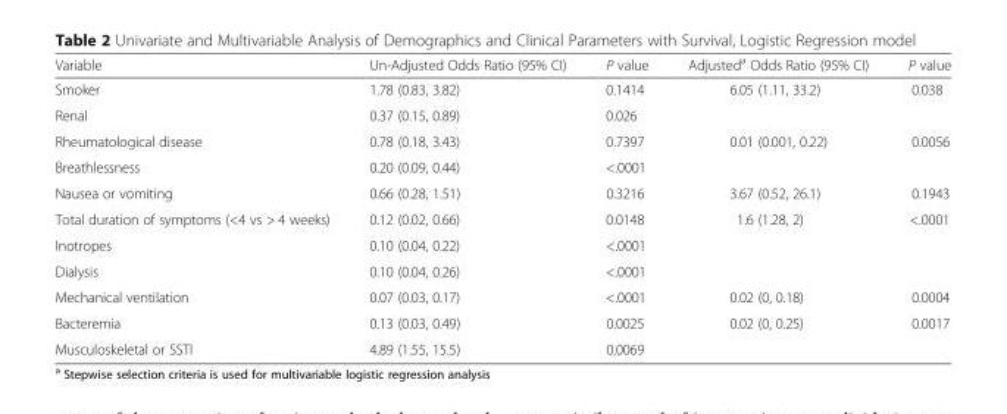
<table><thead><tr><td>Variable</td><td>Un-Adjusted Odds Ratio (95% CI)</td><td>P value</td><td>Adjusted<sup>a</sup> Odds Ratio (95% CI)</td><td>P value</td></tr></thead><tbody><tr><td>Smoker</td><td>1.78 (0.83, 3.82)</td><td>0.1414</td><td>6.05 (1.11, 33.2)</td><td>0.038</td></tr><tr><td>Renal</td><td>0.37 (0.15, 0.89)</td><td>0.026</td><td></td><td></td></tr><tr><td>Rheumatological disease</td><td>0.78 (0.18, 3.43)</td><td>0.7397</td><td>0.01 (0.001, 0.22)</td><td>0.0056</td></tr><tr><td>Breathlessness</td><td>0.20 (0.09, 0.44)</td><td>&lt;.0001</td><td></td><td></td></tr><tr><td>Nausea or vomiting</td><td>0.66 (0.28, 1.51)</td><td>0.3216</td><td>3.67 (0.52, 26.1)</td><td>0.1943</td></tr><tr><td>Total duration of symptoms (&lt;4 vs &gt; 4 weeks)</td><td>0.12 (0.02, 0.66)</td><td>0.0148</td><td>1.6 (1.28, 2)</td><td>&lt;.0001</td></tr><tr><td>Inotropes</td><td>0.10 (0.04, 0.22)</td><td>&lt;.0001</td><td></td><td></td></tr><tr><td>Dialysis</td><td>0.10 (0.04, 0.26)</td><td>&lt;.0001</td><td></td><td></td></tr><tr><td>Mechanical ventilation</td><td>0.07 (0.03, 0.17)</td><td>&lt;.0001</td><td>0.02 (0, 0.18)</td><td>0.0004</td></tr><tr><td>Bacteremia</td><td>0.13 (0.03, 0.49)</td><td>0.0025</td><td>0.02 (0, 0.25)</td><td>0.0017</td></tr><tr><td>Musculoskeletal or SSTI</td><td>4.89 (1.55, 15.5)</td><td>0.0069</td><td></td><td></td></tr></tbody></table>